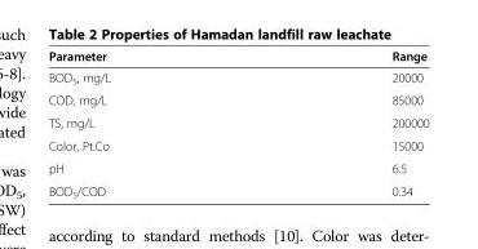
<table><thead><tr><td>Parameter</td><td>Range</td></tr></thead><tbody><tr><td>BOD<sub>5</sub>, mg/L</td><td>20000</td></tr><tr><td>COD, mg/L</td><td>85000</td></tr><tr><td>TS, mg/L</td><td>200000</td></tr><tr><td>Color, Pt.Co</td><td>15000</td></tr><tr><td>pH</td><td>6.5</td></tr><tr><td>BOD<sub>5</sub>/COD</td><td>0.34</td></tr></tbody></table>